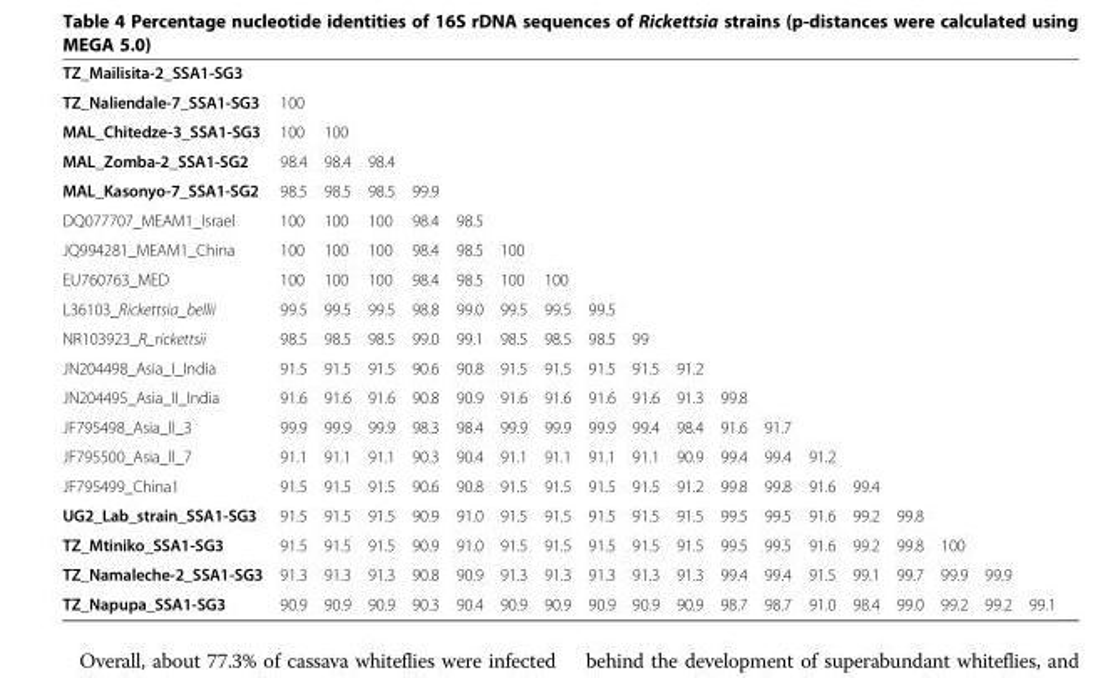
<table><tbody><tr><td colspan="19">TZ_Mailisita-2_SSA1-SG3</td></tr><tr><td>TZ_Naliendale-7_SSA1-SG3</td><td>100</td><td></td><td></td><td></td><td></td><td></td><td></td><td></td><td></td><td></td><td></td><td></td><td></td><td></td><td></td><td></td><td></td><td></td></tr><tr><td>MAL_Chitedze-3_SSA1-SG3</td><td>100</td><td>100</td><td></td><td></td><td></td><td></td><td></td><td></td><td></td><td rowspan="8"></td><td></td><td></td><td></td><td></td><td></td><td></td><td></td><td></td></tr><tr><td>MAL_Zomba-2_SSA1-SG2</td><td>98.4</td><td>98.4</td><td>98.4</td><td></td><td></td><td></td><td></td><td></td><td></td><td></td><td></td><td></td><td></td><td></td><td></td><td></td><td></td></tr><tr><td>MAL_Kasonyo-7_SSA1-SG2</td><td>98.5</td><td>98.5</td><td>98.5</td><td>99.9</td><td></td><td></td><td></td><td></td><td></td><td></td><td></td><td></td><td></td><td></td><td></td><td></td><td></td></tr><tr><td>DQ077707_MEAM1_Israel</td><td>100</td><td>100</td><td>100</td><td>98.4</td><td>98.5</td><td></td><td></td><td></td><td></td><td></td><td></td><td></td><td></td><td></td><td></td><td></td><td></td></tr><tr><td>JQ994281_MEAM1_China</td><td>100</td><td>100</td><td>100</td><td>98.4</td><td>98.5</td><td>100</td><td></td><td></td><td></td><td></td><td></td><td></td><td></td><td></td><td></td><td></td><td></td></tr><tr><td>EU760763_MED</td><td>100</td><td>100</td><td>100</td><td>98.4</td><td>98.5</td><td>100</td><td>100</td><td></td><td></td><td></td><td></td><td></td><td></td><td></td><td></td><td></td><td></td></tr><tr><td>L36103_Rickettsia_bellii</td><td>99.5</td><td>99.5</td><td>99.5</td><td>98.8</td><td>99.0</td><td>99.5</td><td>99.5</td><td>99.5</td><td></td><td></td><td></td><td></td><td></td><td></td><td></td><td></td><td></td></tr><tr><td>NR103923_R_rickettsii</td><td>98.5</td><td>98.5</td><td>98.5</td><td>99.0</td><td>99.1</td><td>98.5</td><td>98.5</td><td>98.5</td><td>99</td><td></td><td></td><td></td><td></td><td></td><td></td><td></td><td></td></tr><tr><td>JN204498_Asia_I_India</td><td>91.5</td><td>91.5</td><td>91.5</td><td>90.6</td><td>90.8</td><td>91.5</td><td>91.5</td><td>91.5</td><td>91.5</td><td>91.2</td><td></td><td></td><td></td><td></td><td></td><td></td><td></td><td></td></tr><tr><td>JN204495_Asia_II_India</td><td>91.6</td><td>91.6</td><td>91.6</td><td>90.8</td><td>90.9</td><td>91.6</td><td>91.6</td><td>91.6</td><td>91.6</td><td>91.3</td><td>99.8</td><td></td><td></td><td></td><td></td><td></td><td></td><td></td></tr><tr><td>JF795498_Asia_ll_3</td><td>99.9</td><td>99.9</td><td>99.9</td><td>98.3</td><td>98.4</td><td>99.9</td><td>99.9</td><td>99.9</td><td>99.4</td><td>98.4</td><td>91.6</td><td>91.7</td><td></td><td></td><td></td><td></td><td></td><td></td></tr><tr><td>JF795500_Asia_ll_7</td><td>91.1</td><td>91.1</td><td>91.1</td><td>90.3</td><td>90.4</td><td>91.1</td><td>91.1</td><td>91.1</td><td>91.1</td><td>90.9</td><td>99.4</td><td>99.4</td><td>91.2</td><td></td><td></td><td></td><td></td><td></td></tr><tr><td>JF795499_China1</td><td>91.5</td><td>91.5</td><td>91.5</td><td>90.6</td><td>90.8</td><td>91.5</td><td>91.5</td><td>91.5</td><td>91.5</td><td>91.2</td><td>99.8</td><td>99.8</td><td>91.6</td><td>99.4</td><td></td><td></td><td></td><td></td></tr><tr><td>UG2_Lab_strain_SSA1-SG3</td><td>91.5</td><td>91.5</td><td>91.5</td><td>90.9</td><td>91.0</td><td>91.5</td><td>91.5</td><td>91.5</td><td>91.5</td><td>91.5</td><td>99.5</td><td>99.5</td><td>91.6</td><td>99.2</td><td>99.8</td><td></td><td></td><td></td></tr><tr><td>TZ_Mtiniko_SSA1-SG3</td><td>91.5</td><td>91.5</td><td>91.5</td><td>90.9</td><td>91.0</td><td>91.5</td><td>91.5</td><td>91.5</td><td>91.5</td><td>91.5</td><td>99.5</td><td>99.5</td><td>91.6</td><td>99.2</td><td>99.8</td><td>100</td><td></td><td></td></tr><tr><td>TZ_Namaleche-2_SSA1-SG3</td><td>91.3</td><td>91.3</td><td>91.3</td><td>90.8</td><td>90.9</td><td>91.3</td><td>91.3</td><td>91.3</td><td>91.3</td><td>91.3</td><td>99.4</td><td>99.4</td><td>91.5</td><td>99.1</td><td>99.7</td><td>99.9</td><td>99.9</td><td></td></tr><tr><td>TZ_Napupa_SSA1-SG3</td><td>90.9</td><td>90.9</td><td>90.9</td><td>90.3</td><td>90.4</td><td>90.9</td><td>90.9</td><td>90.9</td><td>90.9</td><td>90.9</td><td>98.7</td><td>98.7</td><td>91.0</td><td>98.4</td><td>99.0</td><td>99.2</td><td>99.2</td><td>99.1</td></tr></tbody></table>